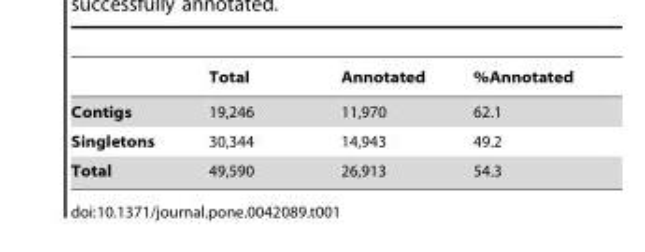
<table><thead><tr><td></td><td>Total</td><td>Annotated</td><td>%Annotated</td></tr></thead><tbody><tr><td>Contigs</td><td>19,246</td><td>11,970</td><td>62.1</td></tr><tr><td>Singletons</td><td>30,344</td><td>14,943</td><td>49.2</td></tr><tr><td>Total</td><td>49,590</td><td>26,913</td><td>54.3</td></tr></tbody></table>